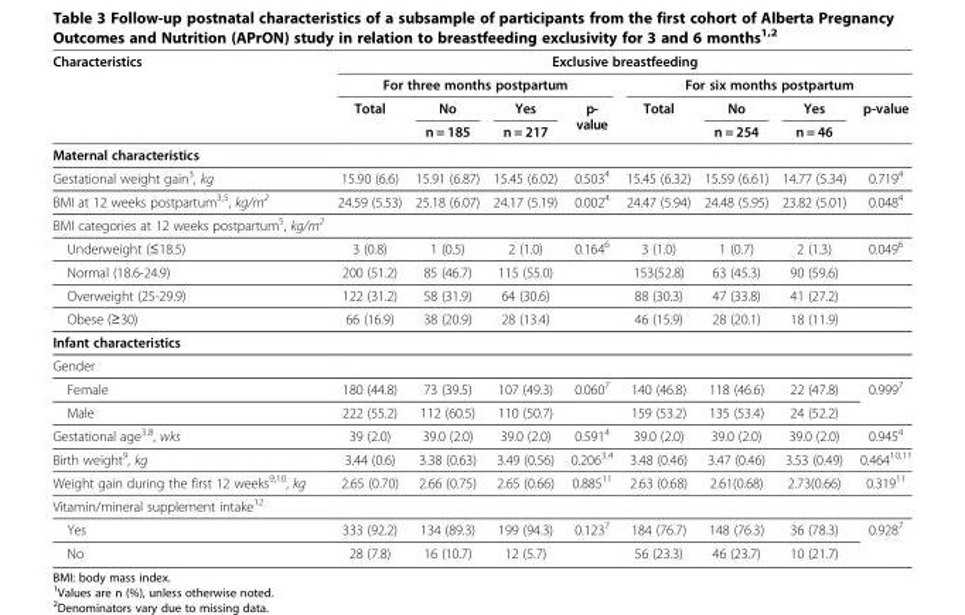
<table><thead><tr><td rowspan="4">Characteristics</td><td colspan="8">Exclusive breastfeeding</td></tr><tr><td colspan="4">For three months postpartum</td><td colspan="4">For six months postpartum</td></tr><tr><td rowspan="2">Total</td><td rowspan="2">No n = 185</td><td rowspan="2">Yes n = 217</td><td rowspan="2">p- value</td><td rowspan="2">Total</td><td rowspan="2">No n = 254</td><td rowspan="2">Yes n = 46</td><td rowspan="2">p-value</td></tr><tr></tr></thead><tbody><tr><td colspan="9">Maternal characteristics</td></tr><tr><td>Gestational weight gain<sup>3</sup>, kg</td><td>15.90 (6.6)</td><td>15.91 (6.87)</td><td>15.45 (6.02)</td><td>0.503<sup>4</sup></td><td>15.45 (6.32)</td><td>15.59 (6.61)</td><td>14.77 (5.34)</td><td>0.719<sup>4</sup></td></tr><tr><td>BMI at 12 weeks postpartum<sup>3,5</sup>, kg/m<sup>2</sup></td><td>24.59 (5.53)</td><td>25.18 (6.07)</td><td>24.17 (5.19)</td><td>0.002<sup>4</sup></td><td>24.47 (5.94)</td><td>24.48 (5.95)</td><td>23.82 (5.01)</td><td>0.048<sup>4</sup></td></tr><tr><td colspan="9">BMI categories at 12 weeks postpartum<sup>5</sup>, kg/m<sup>2</sup></td></tr><tr><td>Underweight (≤18.5)</td><td>3 (0.8)</td><td>1 (0.5)</td><td>2 (1.0)</td><td>0.164<sup>6</sup></td><td>3 (1.0)</td><td>1 (0.7)</td><td>2 (1.3)</td><td>0.049<sup>6</sup></td></tr><tr><td>Normal (18.6-24.9)</td><td>200 (51.2)</td><td>85 (46.7)</td><td>115 (55.0)</td><td></td><td>153(52.8)</td><td>63 (45.3)</td><td>90 (59.6)</td><td></td></tr><tr><td>Overweight (25-29.9)</td><td>122 (31.2)</td><td>58 (31.9)</td><td>64 (30.6)</td><td></td><td>88 (30.3)</td><td>47 (33.8)</td><td>41 (27.2)</td><td></td></tr><tr><td>Obese (≥30)</td><td>66 (16.9)</td><td>38 (20.9)</td><td>28 (13.4)</td><td></td><td>46 (15.9)</td><td>28 (20.1)</td><td>18 (11.9)</td><td></td></tr><tr><td colspan="9">Infant characteristics</td></tr><tr><td colspan="9">Gender</td></tr><tr><td>Female</td><td>180 (44.8)</td><td>73 (39.5)</td><td>107 (49.3)</td><td>0.060<sup>7</sup></td><td>140 (46.8)</td><td>118 (46.6)</td><td>22 (47.8)</td><td rowspan="2">0.999<sup>7</sup></td></tr><tr><td>Male</td><td>222 (55.2)</td><td>112 (60.5)</td><td>110 (50.7)</td><td></td><td>159 (53.2)</td><td>135 (53.4)</td><td>24 (52.2)</td></tr><tr><td>Gestational age<sup>3,8</sup>, wks</td><td>39 (2.0)</td><td>39.0 (2.0)</td><td>39.0 (2.0)</td><td>0.591<sup>4</sup></td><td>39.0 (2.0)</td><td>39.0 (2.0)</td><td>39.0 (2.0)</td><td>0.945<sup>4</sup></td></tr><tr><td>Birth weight<sup>9</sup>, kg</td><td>3.44 (0.6)</td><td>3.38 (0.63)</td><td>3.49 (0.56)</td><td>0.206<sup>3,4</sup></td><td>3.48 (0.46)</td><td>3.47 (0.46)</td><td>3.53 (0.49)</td><td>0.464<sup>10,11</sup></td></tr><tr><td>Weight gain during the first 12 weeks<sup>9,10</sup>, kg</td><td>2.65 (0.70)</td><td>2.66 (0.75)</td><td>2.65 (0.66)</td><td>0.885<sup>11</sup></td><td>2.63 (0.68)</td><td>2.61(0.68)</td><td>2.73(0.66)</td><td>0.319<sup>11</sup></td></tr><tr><td colspan="9">Vitamin/mineral supplement intake<sup>12</sup></td></tr><tr><td>Yes</td><td>333 (92.2)</td><td>134 (89.3)</td><td>199 (94.3)</td><td>0.123<sup>7</sup></td><td>184 (76.7)</td><td>148 (76.3)</td><td>36 (78.3)</td><td rowspan="2">0.928<sup>7</sup></td></tr><tr><td>No</td><td>28 (7.8)</td><td>16 (10.7)</td><td>12 (5.7)</td><td></td><td>56 (23.3)</td><td>46 (23.7)</td><td>10 (21.7)</td></tr></tbody></table>